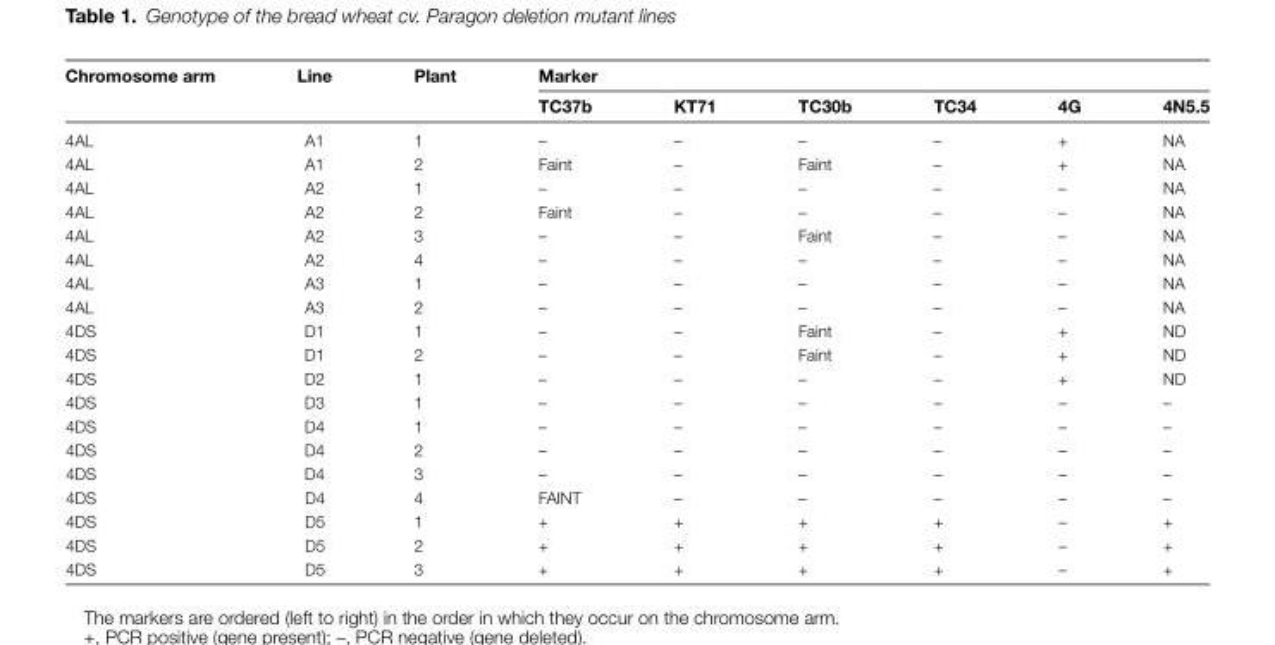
<table><thead><tr><td rowspan="2">Chromosome arm</td><td rowspan="2">Line</td><td rowspan="2">Plant</td><td colspan="6">Marker</td></tr><tr><td>TC37b</td><td>KT71</td><td>TC30b</td><td>TC34</td><td>4G</td><td>4N5.5</td></tr></thead><tbody><tr><td>4AL</td><td>A1</td><td>1</td><td>–</td><td>–</td><td>–</td><td>–</td><td>+</td><td>NA</td></tr><tr><td>4AL</td><td>A1</td><td>2</td><td>Faint</td><td>–</td><td>Faint</td><td>–</td><td>+</td><td>NA</td></tr><tr><td>4AL</td><td>A2</td><td>1</td><td>–</td><td>–</td><td>–</td><td>–</td><td>–</td><td>NA</td></tr><tr><td>4AL</td><td>A2</td><td>2</td><td>Faint</td><td>–</td><td>–</td><td>–</td><td>–</td><td>NA</td></tr><tr><td>4AL</td><td>A2</td><td>3</td><td>–</td><td>–</td><td>Faint</td><td>–</td><td>–</td><td>NA</td></tr><tr><td>4AL</td><td>A2</td><td>4</td><td>–</td><td>–</td><td>–</td><td>–</td><td>–</td><td>NA</td></tr><tr><td>4AL</td><td>A3</td><td>1</td><td>–</td><td>–</td><td>–</td><td>–</td><td>–</td><td>NA</td></tr><tr><td>4AL</td><td>A3</td><td>2</td><td>–</td><td>–</td><td>–</td><td>–</td><td>–</td><td>NA</td></tr><tr><td>4DS</td><td>D1</td><td>1</td><td>–</td><td>–</td><td>Faint</td><td>–</td><td>+</td><td>ND</td></tr><tr><td>4DS</td><td>D1</td><td>2</td><td>–</td><td>–</td><td>Faint</td><td>–</td><td>+</td><td>ND</td></tr><tr><td>4DS</td><td>D2</td><td>1</td><td>–</td><td>–</td><td>–</td><td>–</td><td>+</td><td>ND</td></tr><tr><td>4DS</td><td>D3</td><td>1</td><td>–</td><td>–</td><td>–</td><td>–</td><td>–</td><td>–</td></tr><tr><td>4DS</td><td>D4</td><td>1</td><td>–</td><td>–</td><td>–</td><td>–</td><td>–</td><td>–</td></tr><tr><td>4DS</td><td>D4</td><td>2</td><td>–</td><td>–</td><td>–</td><td>–</td><td>–</td><td>–</td></tr><tr><td>4DS</td><td>D4</td><td>3</td><td>–</td><td>–</td><td>–</td><td>–</td><td>–</td><td>–</td></tr><tr><td>4DS</td><td>D4</td><td>4</td><td>FAINT</td><td>–</td><td>–</td><td>–</td><td>–</td><td>–</td></tr><tr><td>4DS</td><td>D5</td><td>1</td><td>+</td><td>+</td><td>+</td><td>+</td><td>–</td><td>+</td></tr><tr><td>4DS</td><td>D5</td><td>2</td><td>+</td><td>+</td><td>+</td><td>+</td><td>–</td><td>+</td></tr><tr><td>4DS</td><td>D5</td><td>3</td><td>+</td><td>+</td><td>+</td><td>+</td><td>–</td><td>+</td></tr></tbody></table>